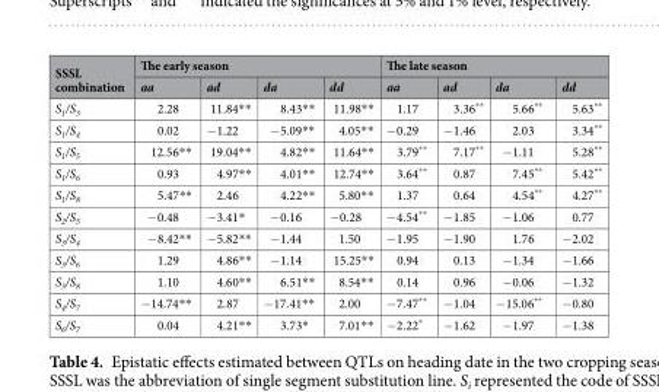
<table><thead><tr><td rowspan="2">SSSL combination</td><td colspan="4">The early season</td><td colspan="4">The late season</td></tr><tr><td>aa</td><td>ad</td><td>da</td><td>dd</td><td>aa</td><td>ad</td><td>da</td><td>dd</td></tr></thead><tbody><tr><td>S<sub>1</sub>/S<sub>3</sub></td><td>2.28</td><td>11.84**</td><td>8.43**</td><td>11.98**</td><td>1.17</td><td>3.36**</td><td>5.66**</td><td>5.63**</td></tr><tr><td>S<sub>1</sub>/S<sub>4</sub></td><td>0.02</td><td>−1.22</td><td>−5.09**</td><td>4.05**</td><td>−0.29</td><td>−1.46</td><td>2.03</td><td>3.34**</td></tr><tr><td>S<sub>1</sub>/S<sub>5</sub></td><td>12.56**</td><td>19.04**</td><td>4.82**</td><td>11.64**</td><td>3.79**</td><td>7.17**</td><td>−1.11</td><td>5.28**</td></tr><tr><td>S<sub>1</sub>/S<sub>6</sub></td><td>0.93</td><td>4.97**</td><td>4.01**</td><td>12.74**</td><td>3.64**</td><td>0.87</td><td>7.45**</td><td>5.42**</td></tr><tr><td>S<sub>1</sub>/S<sub>8</sub></td><td>5.47**</td><td>2.46</td><td>4.22**</td><td>5.80**</td><td>1.37</td><td>0.64</td><td>4.54**</td><td>4.27**</td></tr><tr><td>S<sub>2</sub>/S<sub>5</sub></td><td>−0.48</td><td>−3.41*</td><td>−0.16</td><td>−0.28</td><td>−4.54**</td><td>−1.85</td><td>−1.06</td><td>0.77</td></tr><tr><td>S<sub>3</sub>/S<sub>4</sub></td><td>−8.42**</td><td>−5.82**</td><td>−1.44</td><td>1.50</td><td>−1.95</td><td>−1.90</td><td>1.76</td><td>−2.02</td></tr><tr><td>S<sub>3</sub>/S<sub>6</sub></td><td>1.29</td><td>4.86**</td><td>−1.14</td><td>15.25**</td><td>0.94</td><td>0.13</td><td>−1.34</td><td>−1.66</td></tr><tr><td>S<sub>3</sub>/S<sub>8</sub></td><td>1.10</td><td>4.60**</td><td>6.51**</td><td>8.54**</td><td>0.14</td><td>0.96</td><td>−0.06</td><td>−1.32</td></tr><tr><td>S<sub>4</sub>/S<sub>7</sub></td><td>−14.74**</td><td>2.87</td><td>−17.41**</td><td>2.00</td><td>−7.47**</td><td>−1.04</td><td>−15.06**</td><td>−0.80</td></tr><tr><td>S<sub>6</sub>/S<sub>7</sub></td><td>0.04</td><td>4.21**</td><td>3.73*</td><td>7.01**</td><td>−2.22*</td><td>−1.62</td><td>−1.97</td><td>−1.38</td></tr></tbody></table>